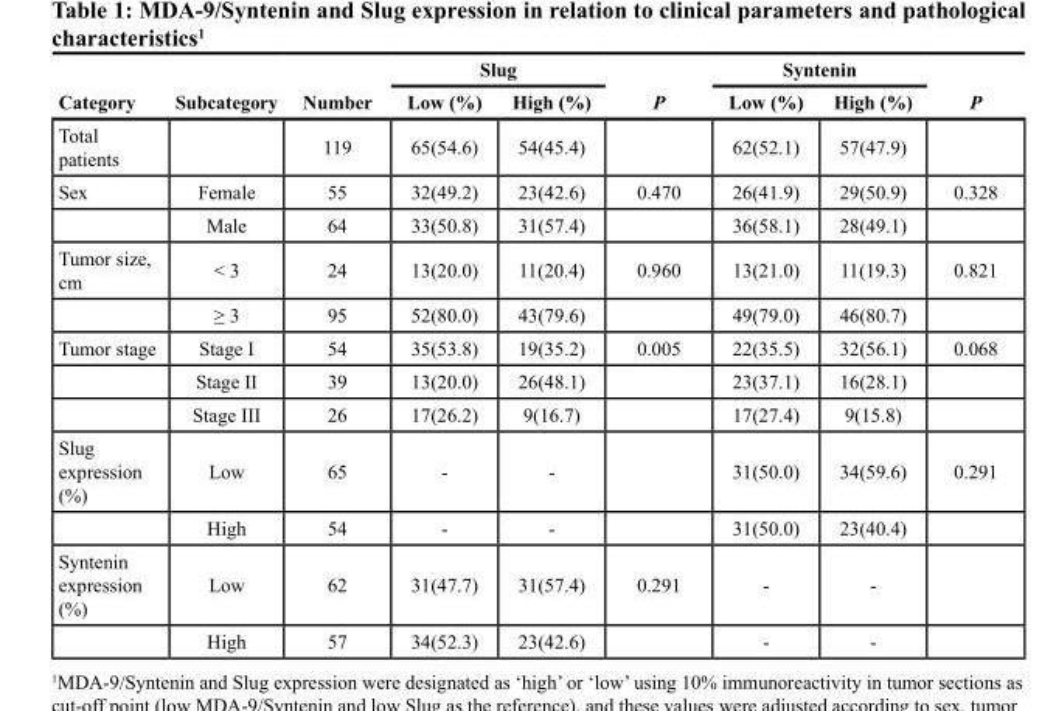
<table><thead><tr><td rowspan="2">Category</td><td rowspan="2">Subcategory</td><td rowspan="2">Number</td><td colspan="2">Slug</td><td rowspan="2">P</td><td colspan="2">Syntenin</td><td rowspan="2">P</td></tr><tr><td>Low (%)</td><td>High (%)</td><td>Low (%)</td><td>High (%)</td></tr></thead><tbody><tr><td>Total patients</td><td></td><td>119</td><td>65(54.6)</td><td>54(45.4)</td><td></td><td>62(52.1)</td><td>57(47.9)</td><td></td></tr><tr><td rowspan="2">Sex</td><td>Female</td><td>55</td><td>32(49.2)</td><td>23(42.6)</td><td>0.470</td><td>26(41.9)</td><td>29(50.9)</td><td>0.328</td></tr><tr><td>Male</td><td>64</td><td>33(50.8)</td><td>31(57.4)</td><td></td><td>36(58.1)</td><td>28(49.1)</td><td></td></tr><tr><td rowspan="2">Tumor size, cm</td><td>&lt; 3</td><td>24</td><td>13(20.0)</td><td>11(20.4)</td><td>0.960</td><td>13(21.0)</td><td>11(19.3)</td><td>0.821</td></tr><tr><td>≥ 3</td><td>95</td><td>52(80.0)</td><td>43(79.6)</td><td></td><td>49(79.0)</td><td>46(80.7)</td><td></td></tr><tr><td rowspan="3">Tumor stage</td><td>Stage I</td><td>54</td><td>35(53.8)</td><td>19(35.2)</td><td>0.005</td><td>22(35.5)</td><td>32(56.1)</td><td>0.068</td></tr><tr><td>Stage II</td><td>39</td><td>13(20.0)</td><td>26(48.1)</td><td></td><td>23(37.1)</td><td>16(28.1)</td><td></td></tr><tr><td>Stage III</td><td>26</td><td>17(26.2)</td><td>9(16.7)</td><td></td><td>17(27.4)</td><td>9(15.8)</td><td></td></tr><tr><td rowspan="2">Slug expression (%)</td><td>Low</td><td>65</td><td>-</td><td>-</td><td></td><td>31(50.0)</td><td>34(59.6)</td><td>0.291</td></tr><tr><td>High</td><td>54</td><td>-</td><td>-</td><td></td><td>31(50.0)</td><td>23(40.4)</td><td></td></tr><tr><td rowspan="2">Syntenin expression (%)</td><td>Low</td><td>62</td><td>31(47.7)</td><td>31(57.4)</td><td>0.291</td><td>-</td><td>-</td><td></td></tr><tr><td>High</td><td>57</td><td>34(52.3)</td><td>23(42.6)</td><td></td><td>-</td><td>-</td><td></td></tr></tbody></table>